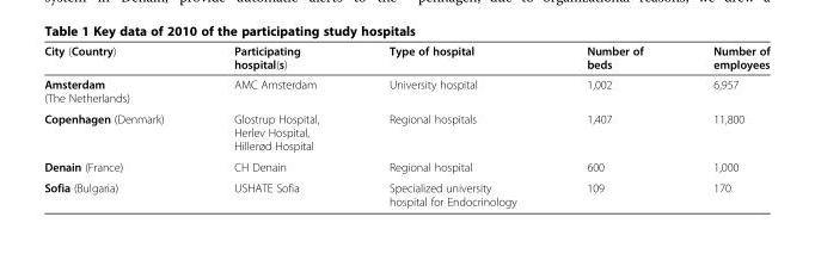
<table><thead><tr><td>City (Country)</td><td>Participating hospital(s)</td><td>Type of hospital</td><td>Number of beds</td><td>Number of employees</td></tr></thead><tbody><tr><td>Amsterdam (The Netherlands)</td><td>AMC Amsterdam</td><td>University hospital</td><td>1,002</td><td>6,957</td></tr><tr><td>Copenhagen (Denmark)</td><td>Glostrup Hospital, Herlev Hospital, Hillerød Hospital</td><td>Regional hospitals</td><td>1,407</td><td>11,800</td></tr><tr><td>Denain (France)</td><td>CH Denain</td><td>Regional hospital</td><td>600</td><td>1,000</td></tr><tr><td>Sofia (Bulgaria)</td><td>USHATE Sofia</td><td>Specialized university hospital for Endocrinology</td><td>109</td><td>170</td></tr></tbody></table>